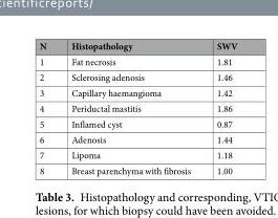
<table><thead><tr><td>N</td><td>Histopathology</td><td>SWV</td></tr></thead><tbody><tr><td>1</td><td>Fat necrosis</td><td>1.81</td></tr><tr><td>2</td><td>Sclerosing adenosis</td><td>1.46</td></tr><tr><td>3</td><td>Capillary haemangioma</td><td>1.42</td></tr><tr><td>4</td><td>Periductal mastitis</td><td>1.86</td></tr><tr><td>5</td><td>Inflamed cyst</td><td>0.87</td></tr><tr><td>6</td><td>Adenosis</td><td>1.44</td></tr><tr><td>7</td><td>Lipoma</td><td>1.18</td></tr><tr><td>8</td><td>Breast parenchyma with fibrosis</td><td>1.00</td></tr></tbody></table>